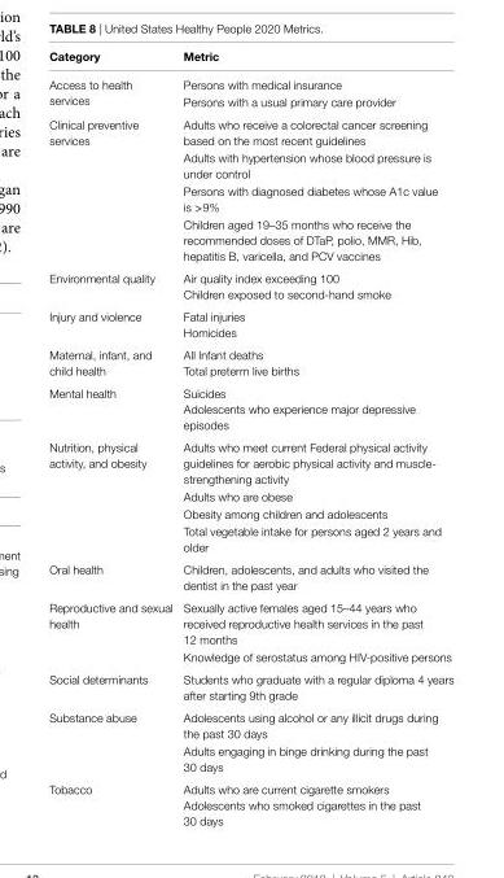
<table><thead><tr><td>Category</td><td>Metric</td></tr></thead><tbody><tr><td rowspan="2">Access to health services</td><td>Persons with medical insurance</td></tr><tr><td>Persons with a usual primary care provider</td></tr><tr><td rowspan="4">Clinical preventive services</td><td>Adults who receive a colorectal cancer screening based on the most recent guidelines</td></tr><tr><td>Adults with hypertension whose blood pressure is under control</td></tr><tr><td>Persons with diagnosed diabetes whose A1c value is &gt;9%</td></tr><tr><td>Children aged 19–35 months who receive the recommended doses of DTaP, polio, MMR, Hib, hepatitis B, varicella, and PCV vaccines</td></tr><tr><td rowspan="2">Environmental quality</td><td>Air quality index exceeding 100</td></tr><tr><td>Children exposed to second-hand smoke</td></tr><tr><td rowspan="2">Injury and violence</td><td>Fatal injuries</td></tr><tr><td>Homicides</td></tr><tr><td rowspan="2">Maternal, infant, and child health</td><td>All Infant deaths</td></tr><tr><td>Total preterm live births</td></tr><tr><td rowspan="2">Mental health</td><td>Suicides</td></tr><tr><td>Adolescents who experience major depressive episodes</td></tr><tr><td rowspan="4">Nutrition, physical activity, and obesity</td><td>Adults who meet current Federal physical activity guidelines for aerobic physical activity and muscle- strengthening activity</td></tr><tr><td>Adults who are obese</td></tr><tr><td>Obesity among children and adolescents</td></tr><tr><td>Total vegetable intake for persons aged 2 years and older</td></tr><tr><td>Oral health</td><td>Children, adolescents, and adults who visited the dentist in the past year</td></tr><tr><td rowspan="2">Reproductive and sexual health</td><td>Sexually active females aged 15–44 years who received reproductive health services in the past 12 months</td></tr><tr><td>Knowledge of serostatus among HIV-positive persons</td></tr><tr><td>Social determinants</td><td>Students who graduate with a regular diploma 4 years after starting 9th grade</td></tr><tr><td rowspan="2">Substance abuse</td><td>Adolescents using alcohol or any illicit drugs during the past 30 days</td></tr><tr><td>Adults engaging in binge drinking during the past 30 days</td></tr><tr><td rowspan="2">Tobacco</td><td>Adults who are current cigarette smokers</td></tr><tr><td>Adolescents who smoked cigarettes in the past 30 days</td></tr></tbody></table>